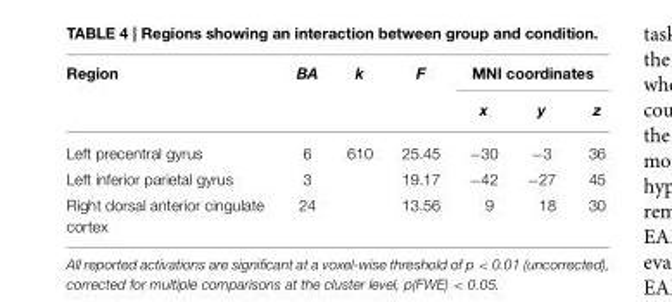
<table><thead><tr><td rowspan="2">Region</td><td rowspan="2">BA</td><td rowspan="2">k</td><td rowspan="2">F</td><td colspan="3">MNI coordinates</td></tr><tr><td>x</td><td>y</td><td>z</td></tr></thead><tbody><tr><td>Left precentral gyrus</td><td>6</td><td>610</td><td>25.45</td><td>−30</td><td>−3</td><td>36</td></tr><tr><td>Left inferior parietal gyrus</td><td>3</td><td></td><td>19.17</td><td>−42</td><td>−27</td><td>45</td></tr><tr><td>Right dorsal anterior cingulate cortex</td><td>24</td><td></td><td>13.56</td><td>9</td><td>18</td><td>30</td></tr></tbody></table>